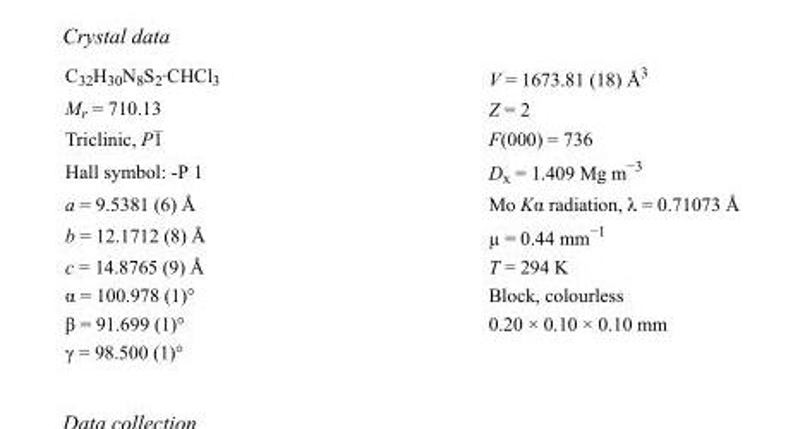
<table><tbody><tr><td>C<sub>32</sub>H<sub>30</sub>N<sub>8</sub>S<sub>2</sub>·CHCl<sub>3</sub></td><td>V = 1673.81 (18) Å<sup>3</sup></td></tr><tr><td>M<sub>r</sub> = 710.13</td><td>Z = 2</td></tr><tr><td>Triclinic, P1</td><td>F(000) = 736</td></tr><tr><td>Hall symbol: -P 1</td><td>D<sub>x</sub> = 1.409 Mg m<sup>−3</sup></td></tr><tr><td>a = 9.5381 (6) Å</td><td>Mo Kα radiation, λ = 0.71073 Å</td></tr><tr><td>b = 12.1712 (8) Å</td><td>µ = 0.44 mm<sup>−1</sup></td></tr><tr><td>c = 14.8765 (9) Å</td><td>T = 294 K</td></tr><tr><td>α = 100.978 (1)°</td><td>Block, colourless</td></tr><tr><td>β = 91.699 (1)°</td><td>0.20 × 0.10 × 0.10 mm</td></tr><tr><td>γ = 98.500 (1)°</td><td></td></tr></tbody></table>